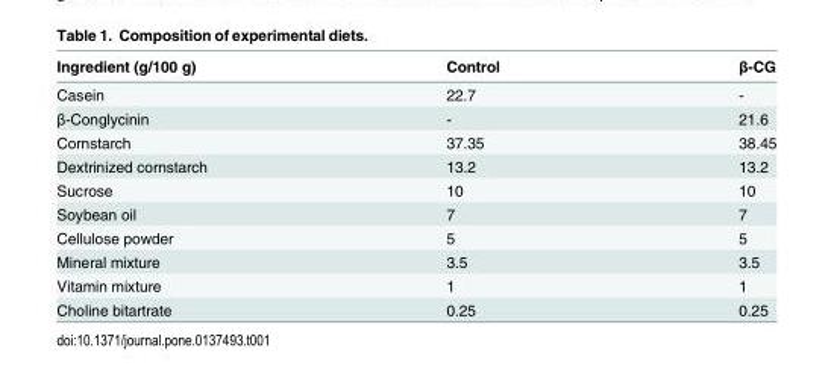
<table><thead><tr><td>Ingredient (g/100 g)</td><td>Control</td><td>β-CG</td></tr></thead><tbody><tr><td>Casein</td><td>22.7</td><td>-</td></tr><tr><td>β-Conglycinin</td><td>-</td><td>21.6</td></tr><tr><td>Cornstarch</td><td>37.35</td><td>38.45</td></tr><tr><td>Dextrinized cornstarch</td><td>13.2</td><td>13.2</td></tr><tr><td>Sucrose</td><td>10</td><td>10</td></tr><tr><td>Soybean oil</td><td>7</td><td>7</td></tr><tr><td>Cellulose powder</td><td>5</td><td>5</td></tr><tr><td>Mineral mixture</td><td>3.5</td><td>3.5</td></tr><tr><td>Vitamin mixture</td><td>1</td><td>1</td></tr><tr><td>Choline bitartrate</td><td>0.25</td><td>0.25</td></tr></tbody></table>